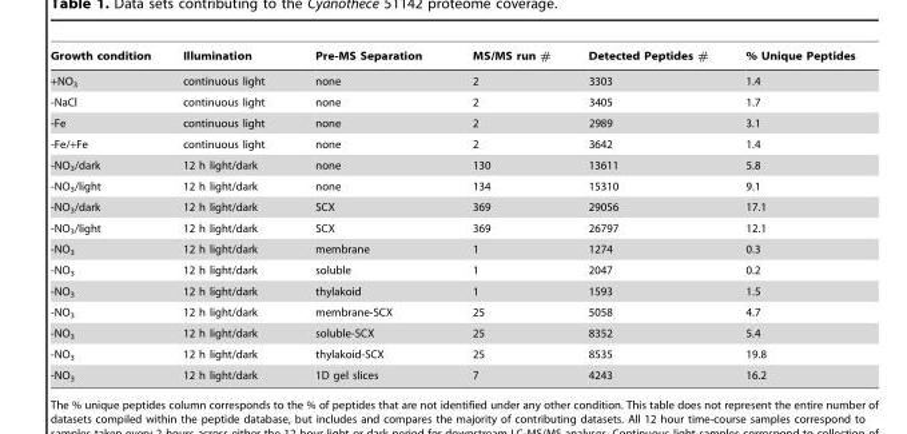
<table><thead><tr><td>Growth condition</td><td>Illumination</td><td>Pre-MS Separation</td><td>MS/MS run #</td><td>Detected Peptides #</td><td>% Unique Peptides</td></tr></thead><tbody><tr><td>+NO<sub>3</sub></td><td>continuous light</td><td>none</td><td>2</td><td>3303</td><td>1.4</td></tr><tr><td>-NaCl</td><td>continuous light</td><td>none</td><td>2</td><td>3405</td><td>1.7</td></tr><tr><td>-Fe</td><td>continuous light</td><td>none</td><td>2</td><td>2989</td><td>3.1</td></tr><tr><td>-Fe/+Fe</td><td>continuous light</td><td>none</td><td>2</td><td>3642</td><td>1.4</td></tr><tr><td>-NO<sub>3</sub>/dark</td><td>12 h light/dark</td><td>none</td><td>130</td><td>13611</td><td>5.8</td></tr><tr><td>-NO<sub>3</sub>/light</td><td>12 h light/dark</td><td>none</td><td>134</td><td>15310</td><td>9.1</td></tr><tr><td>-NO<sub>3</sub>/dark</td><td>12 h light/dark</td><td>SCX</td><td>369</td><td>29056</td><td>17.1</td></tr><tr><td>-NO<sub>3</sub>/light</td><td>12 h light/dark</td><td>SCX</td><td>369</td><td>26797</td><td>12.1</td></tr><tr><td>-NO<sub>3</sub></td><td>12 h light/dark</td><td>membrane</td><td>1</td><td>1274</td><td>0.3</td></tr><tr><td>-NO<sub>3</sub></td><td>12 h light/dark</td><td>soluble</td><td>1</td><td>2047</td><td>0.2</td></tr><tr><td>-NO<sub>3</sub></td><td>12 h light/dark</td><td>thylakoid</td><td>1</td><td>1593</td><td>1.5</td></tr><tr><td>-NO<sub>3</sub></td><td>12 h light/dark</td><td>membrane-SCX</td><td>25</td><td>5058</td><td>4.7</td></tr><tr><td>-NO<sub>3</sub></td><td>12 h light/dark</td><td>soluble-SCX</td><td>25</td><td>8352</td><td>5.4</td></tr><tr><td>-NO<sub>3</sub></td><td>12 h light/dark</td><td>thylakoid-SCX</td><td>25</td><td>8535</td><td>19.8</td></tr><tr><td>-NO<sub>3</sub></td><td>12 h light/dark</td><td>1D gel slices</td><td>7</td><td>4243</td><td>16.2</td></tr></tbody></table>